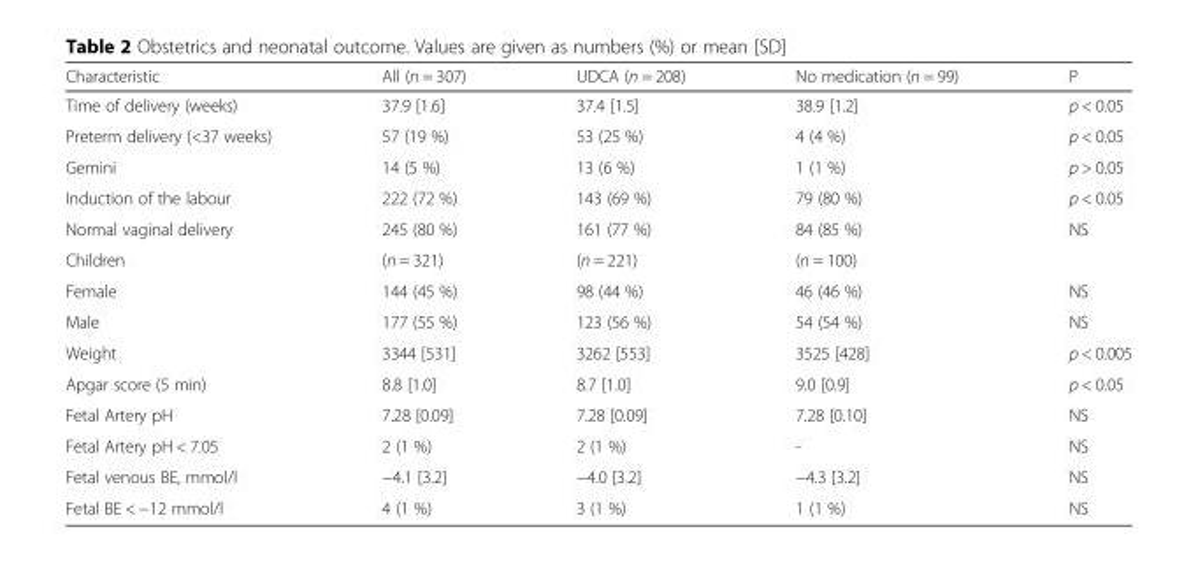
<table><thead><tr><td>Characteristic</td><td>All (n = 307)</td><td>UDCA (n = 208)</td><td>No medication (n = 99)</td><td>P</td></tr></thead><tbody><tr><td>Time of delivery (weeks)</td><td>37.9 [1.6]</td><td>37.4 [1.5]</td><td>38.9 [1.2]</td><td>p &lt; 0.05</td></tr><tr><td>Preterm delivery (&lt;37 weeks)</td><td>57 (19 %)</td><td>53 (25 %)</td><td>4 (4 %)</td><td>p &lt; 0.05</td></tr><tr><td>Gemini</td><td>14 (5 %)</td><td>13 (6 %)</td><td>1 (1 %)</td><td>p &gt; 0.05</td></tr><tr><td>Induction of the labour</td><td>222 (72 %)</td><td>143 (69 %)</td><td>79 (80 %)</td><td>p &lt; 0.05</td></tr><tr><td>Normal vaginal delivery</td><td>245 (80 %)</td><td>161 (77 %)</td><td>84 (85 %)</td><td>NS</td></tr><tr><td>Children</td><td>(n = 321)</td><td>(n = 221)</td><td>(n = 100)</td><td></td></tr><tr><td>Female</td><td>144 (45 %)</td><td>98 (44 %)</td><td>46 (46 %)</td><td>NS</td></tr><tr><td>Male</td><td>177 (55 %)</td><td>123 (56 %)</td><td>54 (54 %)</td><td>NS</td></tr><tr><td>Weight</td><td>3344 [531]</td><td>3262 [553]</td><td>3525 [428]</td><td>p &lt; 0.005</td></tr><tr><td>Apgar score (5 min)</td><td>8.8 [1.0]</td><td>8.7 [1.0]</td><td>9.0 [0.9]</td><td>p &lt; 0.05</td></tr><tr><td>Fetal Artery pH</td><td>7.28 [0.09]</td><td>7.28 [0.09]</td><td>7.28 [0.10]</td><td>NS</td></tr><tr><td>Fetal Artery pH &lt; 7.05</td><td>2 (1 %)</td><td>2 (1 %)</td><td>-</td><td>NS</td></tr><tr><td>Fetal venous BE, mmol/l</td><td>−4.1 [3.2]</td><td>−4.0 [3.2]</td><td>−4.3 [3.2]</td><td>NS</td></tr><tr><td>Fetal BE &lt; −12 mmol/l</td><td>4 (1 %)</td><td>3 (1 %)</td><td>1 (1 %)</td><td>NS</td></tr></tbody></table>